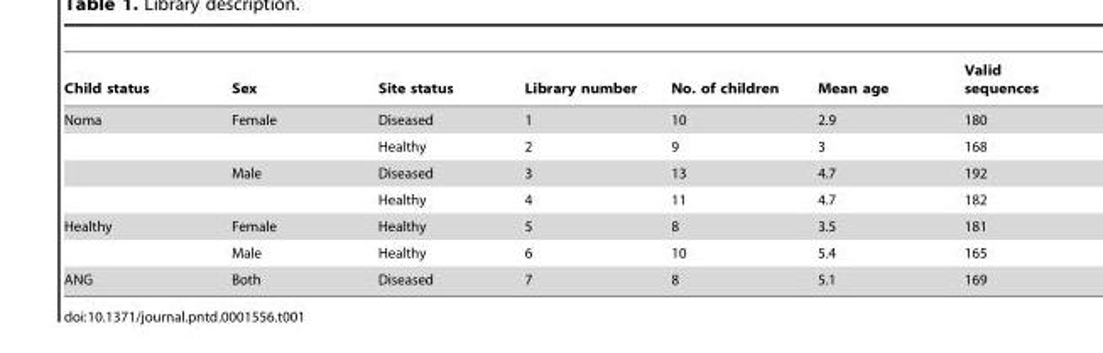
<table><thead><tr><td>Child status</td><td>Sex</td><td>Site status</td><td>Library number</td><td>No. of children</td><td>Mean age</td><td>Valid sequences</td></tr></thead><tbody><tr><td rowspan="4">Noma</td><td>Female</td><td>Diseased</td><td>1</td><td>10</td><td>2.9</td><td>180</td></tr><tr><td></td><td>Healthy</td><td>2</td><td>9</td><td>3</td><td>168</td></tr><tr><td>Male</td><td>Diseased</td><td>3</td><td>13</td><td>4.7</td><td>192</td></tr><tr><td></td><td>Healthy</td><td>4</td><td>11</td><td>4.7</td><td>182</td></tr><tr><td rowspan="2">Healthy</td><td>Female</td><td>Healthy</td><td>5</td><td>8</td><td>3.5</td><td>181</td></tr><tr><td>Male</td><td>Healthy</td><td>6</td><td>10</td><td>5.4</td><td>165</td></tr><tr><td>ANG</td><td>Both</td><td>Diseased</td><td>7</td><td>8</td><td>5.1</td><td>169</td></tr></tbody></table>